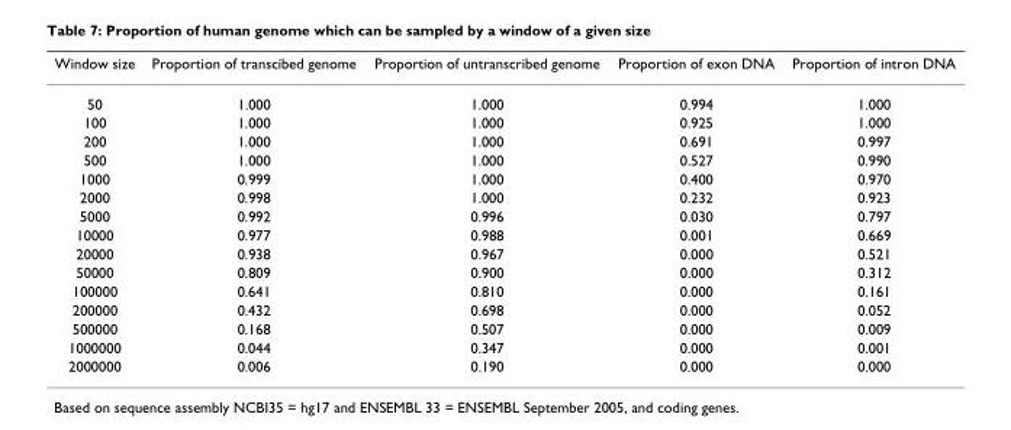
<table><thead><tr><td>Window size</td><td>Proportion of transcibed genome</td><td>Proportion of untranscribed genome</td><td>Proportion of exon DNA</td><td>Proportion of intron DNA</td></tr></thead><tbody><tr><td>50</td><td>1.000</td><td>1.000</td><td>0.994</td><td>1.000</td></tr><tr><td>100</td><td>1.000</td><td>1.000</td><td>0.925</td><td>1.000</td></tr><tr><td>200</td><td>1.000</td><td>1.000</td><td>0.691</td><td>0.997</td></tr><tr><td>500</td><td>1.000</td><td>1.000</td><td>0.527</td><td>0.990</td></tr><tr><td>1000</td><td>0.999</td><td>1.000</td><td>0.400</td><td>0.970</td></tr><tr><td>2000</td><td>0.998</td><td>1.000</td><td>0.232</td><td>0.923</td></tr><tr><td>5000</td><td>0.992</td><td>0.996</td><td>0.030</td><td>0.797</td></tr><tr><td>10000</td><td>0.977</td><td>0.988</td><td>0.001</td><td>0.669</td></tr><tr><td>20000</td><td>0.938</td><td>0.967</td><td>0.000</td><td>0.521</td></tr><tr><td>50000</td><td>0.809</td><td>0.900</td><td>0.000</td><td>0.312</td></tr><tr><td>100000</td><td>0.641</td><td>0.810</td><td>0.000</td><td>0.161</td></tr><tr><td>200000</td><td>0.432</td><td>0.698</td><td>0.000</td><td>0.052</td></tr><tr><td>500000</td><td>0.168</td><td>0.507</td><td>0.000</td><td>0.009</td></tr><tr><td>1000000</td><td>0.044</td><td>0.347</td><td>0.000</td><td>0.001</td></tr><tr><td>2000000</td><td>0.006</td><td>0.190</td><td>0.000</td><td>0.000</td></tr></tbody></table>